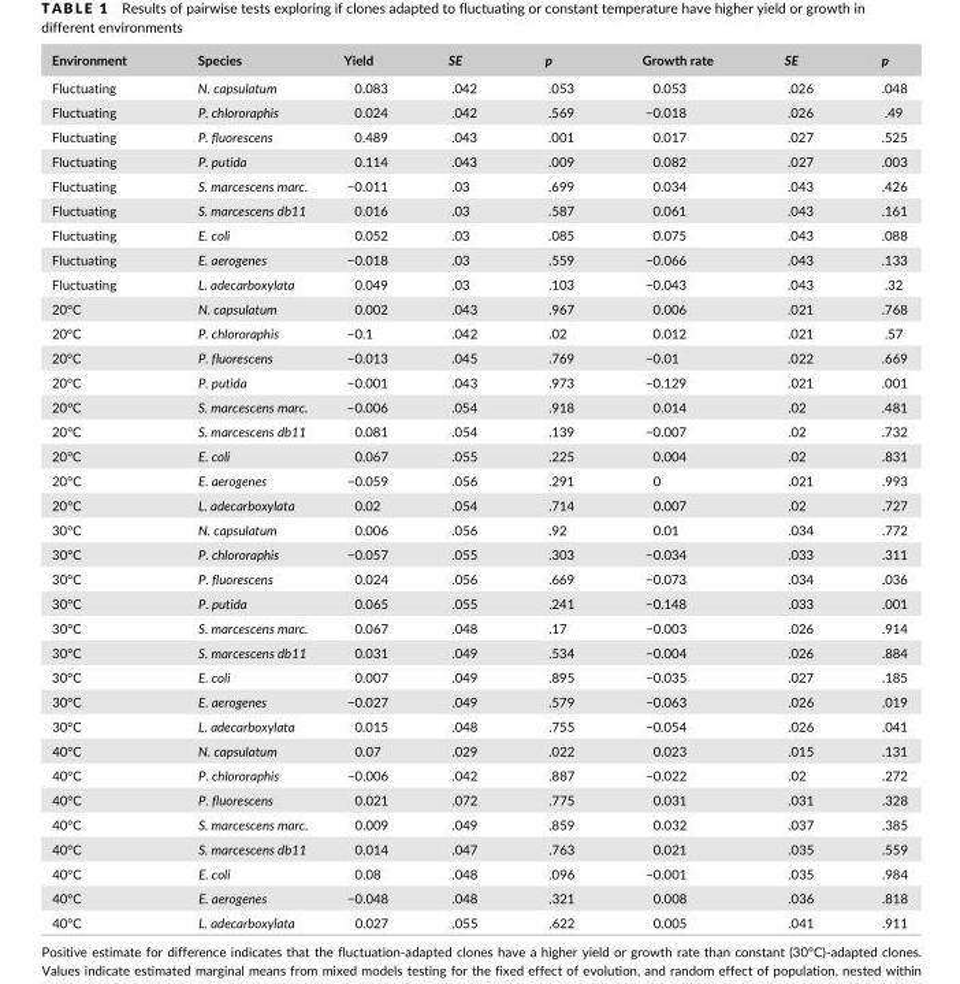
<table><thead><tr><td>Environment</td><td>Species</td><td>Yield</td><td>SE</td><td>p</td><td>Growth rate</td><td>SE</td><td>p</td></tr></thead><tbody><tr><td>Fluctuating</td><td>N. capsulatum</td><td>0.083</td><td>.042</td><td>.053</td><td>0.053</td><td>.026</td><td>.048</td></tr><tr><td>Fluctuating</td><td>P. chlororaphis</td><td>0.024</td><td>.042</td><td>.569</td><td>−0.018</td><td>.026</td><td>.49</td></tr><tr><td>Fluctuating</td><td>P. fluorescens</td><td>0.489</td><td>.043</td><td>.001</td><td>0.017</td><td>.027</td><td>.525</td></tr><tr><td>Fluctuating</td><td>P. putida</td><td>0.114</td><td>.043</td><td>.009</td><td>0.082</td><td>.027</td><td>.003</td></tr><tr><td>Fluctuating</td><td>S. marcescens marc.</td><td>−0.011</td><td>.03</td><td>.699</td><td>0.034</td><td>.043</td><td>.426</td></tr><tr><td>Fluctuating</td><td>S. marcescens db11</td><td>0.016</td><td>.03</td><td>.587</td><td>0.061</td><td>.043</td><td>.161</td></tr><tr><td>Fluctuating</td><td>E. coli</td><td>0.052</td><td>.03</td><td>.085</td><td>0.075</td><td>.043</td><td>.088</td></tr><tr><td>Fluctuating</td><td>E. aerogenes</td><td>−0.018</td><td>.03</td><td>.559</td><td>−0.066</td><td>.043</td><td>.133</td></tr><tr><td>Fluctuating</td><td>L. adecarboxylata</td><td>0.049</td><td>.03</td><td>.103</td><td>−0.043</td><td>.043</td><td>.32</td></tr><tr><td>20°C</td><td>N. capsulatum</td><td>0.002</td><td>.043</td><td>.967</td><td>0.006</td><td>.021</td><td>.768</td></tr><tr><td>20°C</td><td>P. chlororaphis</td><td>−0.1</td><td>.042</td><td>.02</td><td>0.012</td><td>.021</td><td>.57</td></tr><tr><td>20°C</td><td>P. fluorescens</td><td>−0.013</td><td>.045</td><td>.769</td><td>−0.01</td><td>.022</td><td>.669</td></tr><tr><td>20°C</td><td>P. putida</td><td>−0.001</td><td>.043</td><td>.973</td><td>−0.129</td><td>.021</td><td>.001</td></tr><tr><td>20°C</td><td>S. marcescens marc.</td><td>−0.006</td><td>.054</td><td>.918</td><td>0.014</td><td>.02</td><td>.481</td></tr><tr><td>20°C</td><td>S. marcescens db11</td><td>0.081</td><td>.054</td><td>.139</td><td>−0.007</td><td>.02</td><td>.732</td></tr><tr><td>20°C</td><td>E. coli</td><td>0.067</td><td>.055</td><td>.225</td><td>0.004</td><td>.02</td><td>.831</td></tr><tr><td>20°C</td><td>E. aerogenes</td><td>−0.059</td><td>.056</td><td>.291</td><td>0</td><td>.021</td><td>.993</td></tr><tr><td>20°C</td><td>L. adecarboxylata</td><td>0.02</td><td>.054</td><td>.714</td><td>0.007</td><td>.02</td><td>.727</td></tr><tr><td>30°C</td><td>N. capsulatum</td><td>0.006</td><td>.056</td><td>.92</td><td>0.01</td><td>.034</td><td>.772</td></tr><tr><td>30°C</td><td>P. chlororaphis</td><td>−0.057</td><td>.055</td><td>.303</td><td>−0.034</td><td>.033</td><td>.311</td></tr><tr><td>30°C</td><td>P. fluorescens</td><td>0.024</td><td>.056</td><td>.669</td><td>−0.073</td><td>.034</td><td>.036</td></tr><tr><td>30°C</td><td>P. putida</td><td>0.065</td><td>.055</td><td>.241</td><td>−0.148</td><td>.033</td><td>.001</td></tr><tr><td>30°C</td><td>S. marcescens marc.</td><td>0.067</td><td>.048</td><td>.17</td><td>−0.003</td><td>.026</td><td>.914</td></tr><tr><td>30°C</td><td>S. marcescens db11</td><td>0.031</td><td>.049</td><td>.534</td><td>−0.004</td><td>.026</td><td>.884</td></tr><tr><td>30°C</td><td>E. coli</td><td>0.007</td><td>.049</td><td>.895</td><td>−0.035</td><td>.027</td><td>.185</td></tr><tr><td>30°C</td><td>E. aerogenes</td><td>−0.027</td><td>.049</td><td>.579</td><td>−0.063</td><td>.026</td><td>.019</td></tr><tr><td>30°C</td><td>L. adecarboxylata</td><td>0.015</td><td>.048</td><td>.755</td><td>−0.054</td><td>.026</td><td>.041</td></tr><tr><td>40°C</td><td>N. capsulatum</td><td>0.07</td><td>.029</td><td>.022</td><td>0.023</td><td>.015</td><td>.131</td></tr><tr><td>40°C</td><td>P. chlororaphis</td><td>−0.006</td><td>.042</td><td>.887</td><td>−0.022</td><td>.02</td><td>.272</td></tr><tr><td>40°C</td><td>P. fluorescens</td><td>0.021</td><td>.072</td><td>.775</td><td>0.031</td><td>.031</td><td>.328</td></tr><tr><td>40°C</td><td>S. marcescens marc.</td><td>0.009</td><td>.049</td><td>.859</td><td>0.032</td><td>.037</td><td>.385</td></tr><tr><td>40°C</td><td>S. marcescens db11</td><td>0.014</td><td>.047</td><td>.763</td><td>0.021</td><td>.035</td><td>.559</td></tr><tr><td>40°C</td><td>E. coli</td><td>0.08</td><td>.048</td><td>.096</td><td>−0.001</td><td>.035</td><td>.984</td></tr><tr><td>40°C</td><td>E. aerogenes</td><td>−0.048</td><td>.048</td><td>.321</td><td>0.008</td><td>.036</td><td>.818</td></tr><tr><td>40°C</td><td>L. adecarboxylata</td><td>0.027</td><td>.055</td><td>.622</td><td>0.005</td><td>.041</td><td>.911</td></tr></tbody></table>